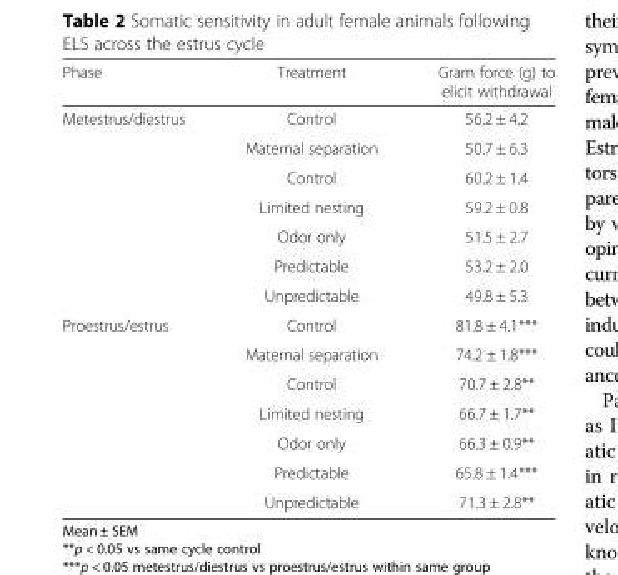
<table><thead><tr><td>Phase</td><td>Treatment</td><td>Gram force (g) to elicit withdrawal</td></tr></thead><tbody><tr><td rowspan="7">Metestrus/diestrus</td><td>Control</td><td>56.2 ± 4.2</td></tr><tr><td>Maternal separation</td><td>50.7 ± 6.3</td></tr><tr><td>Control</td><td>60.2 ± 1.4</td></tr><tr><td>Limited nesting</td><td>59.2 ± 0.8</td></tr><tr><td>Odor only</td><td>51.5 ± 2.7</td></tr><tr><td>Predictable</td><td>53.2 ± 2.0</td></tr><tr><td>Unpredictable</td><td>49.8 ± 5.3</td></tr><tr><td rowspan="7">Proestrus/estrus</td><td>Control</td><td>81.8 ± 4.1***</td></tr><tr><td>Maternal separation</td><td>74.2 ± 1.8***</td></tr><tr><td>Control</td><td>70.7 ± 2.8**</td></tr><tr><td>Limited nesting</td><td>66.7 ± 1.7**</td></tr><tr><td>Odor only</td><td>66.3 ± 0.9**</td></tr><tr><td>Predictable</td><td>65.8 ± 1.4***</td></tr><tr><td>Unpredictable</td><td>71.3 ± 2.8**</td></tr></tbody></table>